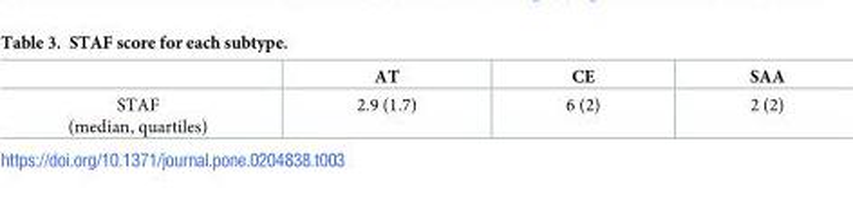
<table><thead><tr><td></td><td>AT</td><td>CE</td><td>SAA</td></tr></thead><tbody><tr><td>STAF (median, quartiles)</td><td>2.9 (1.7)</td><td>6 (2)</td><td>2 (2)</td></tr></tbody></table>